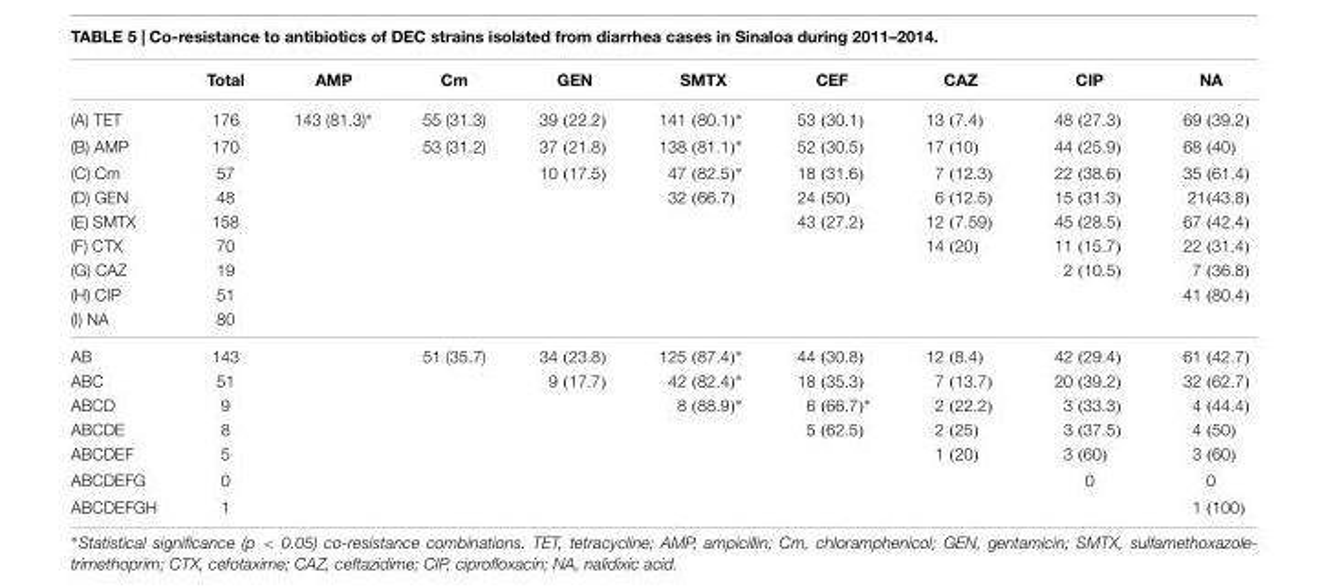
<table><thead><tr><td></td><td>Total</td><td>AMP</td><td>Cm</td><td>GEN</td><td>SMTX</td><td>CEF</td><td>CAZ</td><td>CIP</td><td>NA</td></tr></thead><tbody><tr><td>(A) TET</td><td>176</td><td>143 (81.3)∗</td><td>55 (31.3)</td><td>39 (22.2)</td><td>141 (80.1)∗</td><td>53 (30.1)</td><td>13 (7.4)</td><td>48 (27.3)</td><td>69 (39.2)</td></tr><tr><td>(B) AMP</td><td>170</td><td></td><td>53 (31.2)</td><td>37 (21.8)</td><td>138 (81.1)∗</td><td>52 (30.5)</td><td>17 (10)</td><td>44 (25.9)</td><td>68 (40)</td></tr><tr><td>(C) Cm</td><td>57</td><td></td><td></td><td>10 (17.5)</td><td>47 (82.5)∗</td><td>18 (31.6)</td><td>7 (12.3)</td><td>22 (38.6)</td><td>35 (61.4)</td></tr><tr><td>(D) GEN</td><td>48</td><td></td><td></td><td></td><td>32 (66.7)</td><td>24 (50)</td><td>6 (12.5)</td><td>15 (31.3)</td><td>21(43.8)</td></tr><tr><td>(E) SMTX</td><td>158</td><td></td><td></td><td></td><td></td><td>43 (27.2)</td><td>12 (7.59)</td><td>45 (28.5)</td><td>67 (42.4)</td></tr><tr><td>(F) CTX</td><td>70</td><td></td><td></td><td></td><td></td><td></td><td>14 (20)</td><td>11 (15.7)</td><td>22 (31.4)</td></tr><tr><td>(G) CAZ</td><td>19</td><td></td><td></td><td></td><td></td><td></td><td></td><td>2 (10.5)</td><td>7 (36.8)</td></tr><tr><td>(H) CIP</td><td>51</td><td></td><td></td><td></td><td></td><td></td><td></td><td></td><td>41 (80.4)</td></tr><tr><td>(I) NA</td><td>80</td><td></td><td></td><td></td><td></td><td></td><td></td><td></td><td></td></tr><tr><td>AB</td><td>143</td><td></td><td>51 (35.7)</td><td>34 (23.8)</td><td>125 (87.4)∗</td><td>44 (30.8)</td><td>12 (8.4)</td><td>42 (29.4)</td><td>61 (42.7)</td></tr><tr><td>ABC</td><td>51</td><td></td><td></td><td>9 (17.7)</td><td>42 (82.4)∗</td><td>18 (35.3)</td><td>7 (13.7)</td><td>20 (39.2)</td><td>32 (62.7)</td></tr><tr><td>ABCD</td><td>9</td><td></td><td></td><td></td><td>8 (88.9)∗</td><td>6 (66.7)∗</td><td>2 (22.2)</td><td>3 (33.3)</td><td>4 (44.4)</td></tr><tr><td>ABCDE</td><td>8</td><td></td><td></td><td></td><td></td><td>5 (62.5)</td><td>2 (25)</td><td>3 (37.5)</td><td>4 (50)</td></tr><tr><td>ABCDEF</td><td>5</td><td></td><td></td><td></td><td></td><td></td><td>1 (20)</td><td>3 (60)</td><td>3 (60)</td></tr><tr><td>ABCDEFG</td><td>0</td><td></td><td></td><td></td><td></td><td></td><td></td><td>0</td><td>0</td></tr><tr><td>ABCDEFGH</td><td>1</td><td></td><td></td><td></td><td></td><td></td><td></td><td></td><td>1 (100)</td></tr></tbody></table>